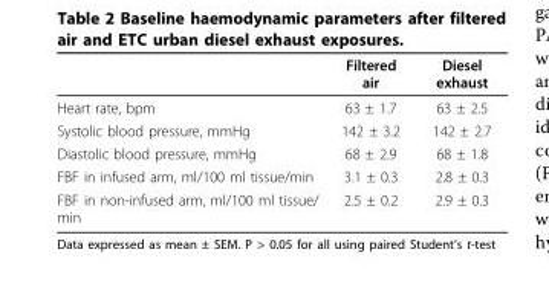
<table><thead><tr><td></td><td>Filtered air</td><td>Diesel exhaust</td></tr></thead><tbody><tr><td>Heart rate, bpm</td><td>63 ± 1.7</td><td>63 ± 2.5</td></tr><tr><td>Systolic blood pressure, mmHg</td><td>142 ± 3.2</td><td>142 ± 2.7</td></tr><tr><td>Diastolic blood pressure, mmHg</td><td>68 ± 2.9</td><td>68 ± 1.8</td></tr><tr><td>FBF in infused arm, ml/100 ml tissue/min</td><td>3.1 ± 0.3</td><td>2.8 ± 0.3</td></tr><tr><td>FBF in non-infused arm, ml/100 ml tissue/ min</td><td>2.5 ± 0.2</td><td>2.9 ± 0.3</td></tr></tbody></table>